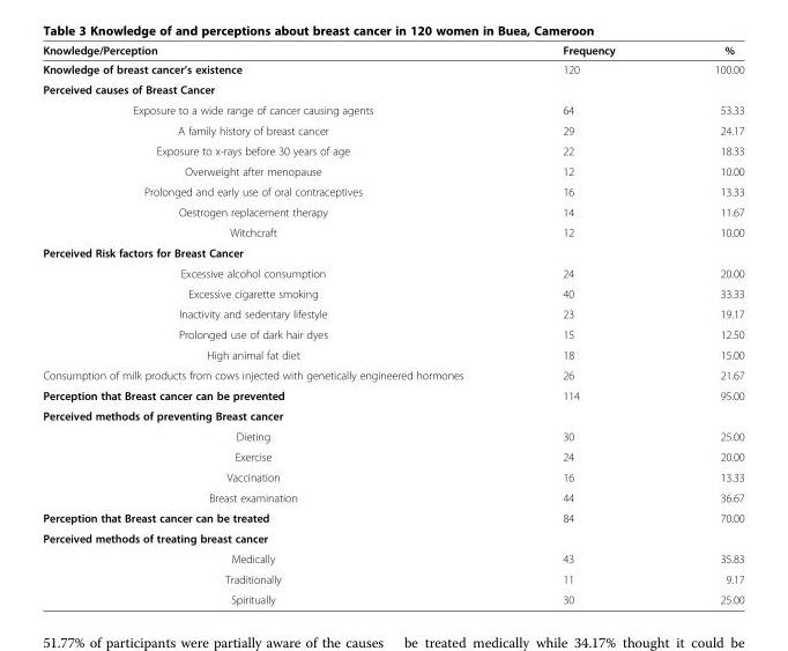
<table><thead><tr><td>Knowledge/Perception</td><td>Frequency</td><td>%</td></tr></thead><tbody><tr><td>Knowledge of breast cancer’s existence</td><td>120</td><td>100.00</td></tr><tr><td colspan="3">Perceived causes of Breast Cancer</td></tr><tr><td>Exposure to a wide range of cancer causing agents</td><td>64</td><td>53.33</td></tr><tr><td>A family history of breast cancer</td><td>29</td><td>24.17</td></tr><tr><td>Exposure to x-rays before 30 years of age</td><td>22</td><td>18.33</td></tr><tr><td>Overweight after menopause</td><td>12</td><td>10.00</td></tr><tr><td>Prolonged and early use of oral contraceptives</td><td>16</td><td>13.33</td></tr><tr><td>Oestrogen replacement therapy</td><td>14</td><td>11.67</td></tr><tr><td>Witchcraft</td><td>12</td><td>10.00</td></tr><tr><td colspan="3">Perceived Risk factors for Breast Cancer</td></tr><tr><td>Excessive alcohol consumption</td><td>24</td><td>20.00</td></tr><tr><td>Excessive cigarette smoking</td><td>40</td><td>33.33</td></tr><tr><td>Inactivity and sedentary lifestyle</td><td>23</td><td>19.17</td></tr><tr><td>Prolonged use of dark hair dyes</td><td>15</td><td>12.50</td></tr><tr><td>High animal fat diet</td><td>18</td><td>15.00</td></tr><tr><td>Consumption of milk products from cows injected with genetically engineered hormones</td><td>26</td><td>21.67</td></tr><tr><td>Perception that Breast cancer can be prevented</td><td>114</td><td>95.00</td></tr><tr><td colspan="3">Perceived methods of preventing Breast cancer</td></tr><tr><td>Dieting</td><td>30</td><td>25.00</td></tr><tr><td>Exercise</td><td>24</td><td>20.00</td></tr><tr><td>Vaccination</td><td>16</td><td>13.33</td></tr><tr><td>Breast examination</td><td>44</td><td>36.67</td></tr><tr><td>Perception that Breast cancer can be treated</td><td>84</td><td>70.00</td></tr><tr><td colspan="3">Perceived methods of treating breast cancer</td></tr><tr><td>Medically</td><td>43</td><td>35.83</td></tr><tr><td>Traditionally</td><td>11</td><td>9.17</td></tr><tr><td>Spiritually</td><td>30</td><td>25.00</td></tr></tbody></table>